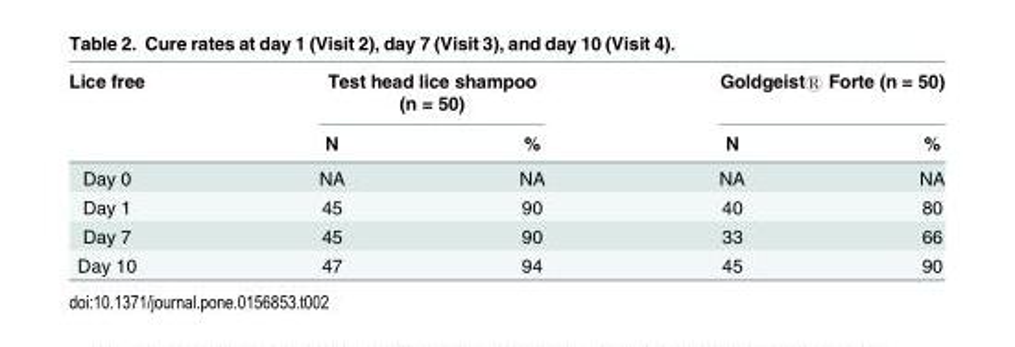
<table><thead><tr><td rowspan="2">Lice free</td><td colspan="2">Test head lice shampoo (n = 50)</td><td colspan="2">Goldgeist® Forte (n = 50)</td></tr><tr><td>N</td><td>%</td><td>N</td><td>%</td></tr></thead><tbody><tr><td>Day 0</td><td>NA</td><td>NA</td><td>NA</td><td>NA</td></tr><tr><td>Day 1</td><td>45</td><td>90</td><td>40</td><td>80</td></tr><tr><td>Day 7</td><td>45</td><td>90</td><td>33</td><td>66</td></tr><tr><td>Day 10</td><td>47</td><td>94</td><td>45</td><td>90</td></tr></tbody></table>